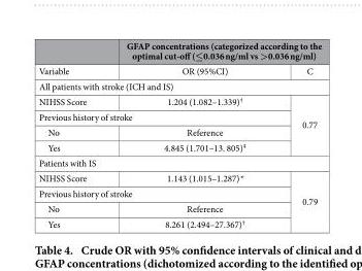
<table><thead><tr><td rowspan="2">Variable</td><td colspan="2">GFAP concentrations (categorized according to the optimal cut-off (≤0.036 ng/ml vs &gt;0.036 ng/ml)</td></tr><tr><td>OR (95%CI)</td><td>C</td></tr></thead><tbody><tr><td colspan="3">All patients with stroke (ICH and IS)</td></tr><tr><td>NIHSS Score</td><td>1.204 (1.082–1.339)†</td><td rowspan="4">0.77</td></tr><tr><td colspan="2">Previous history of stroke</td></tr><tr><td>No</td><td>Reference</td></tr><tr><td>Yes</td><td>4.845 (1.701–13. 805)<sup>‡</sup></td></tr><tr><td colspan="3">Patients with IS</td></tr><tr><td>NIHSS Score</td><td>1.143 (1.015–1.287)*</td><td rowspan="4">0.79</td></tr><tr><td colspan="2">Previous history of stroke</td></tr><tr><td>No</td><td>Reference</td></tr><tr><td>Yes</td><td>8.261 (2.494–27.367)†</td></tr></tbody></table>